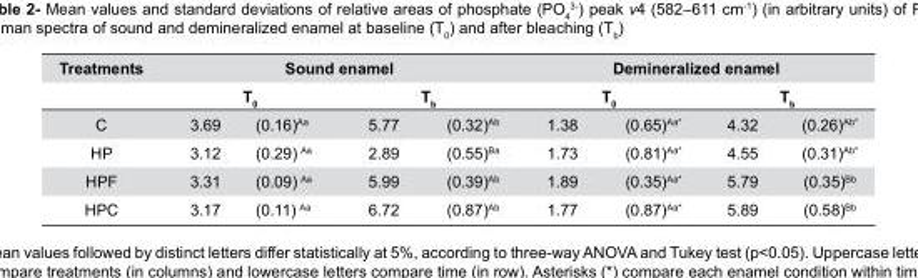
<table><thead><tr><td rowspan="3">Treatments C</td><td colspan="4">Sound enamel</td><td colspan="4">Demineralized enamel</td></tr><tr><td colspan="2"><sup>T</sup><sub>0</sub></td><td colspan="2"><sup>T</sup>b</td><td colspan="2"><sup>T</sup><sub>0</sub></td><td colspan="2"><sup>T</sup>b</td></tr><tr><td>3.69</td><td>(0.16)<sup>Aa</sup></td><td>5.77</td><td>(0.32)<sup>Ab</sup></td><td>1.38</td><td>(0.65)<sup>Aa</sup>*</td><td>4.32</td><td>(0.26)<sup>Ab</sup>*</td></tr></thead><tbody><tr><td>HP</td><td>3.12</td><td>(0.29) <sup>Aa</sup></td><td>2.89</td><td>(0.55)<sup>Ba</sup></td><td>1.73</td><td>(0.81)<sup>Aa</sup>*</td><td>4.55</td><td>(0.31)<sup>Ab</sup>*</td></tr><tr><td>HPF</td><td>3.31</td><td>(0.09) <sup>Aa</sup></td><td>5.99</td><td>(0.39)<sup>Ab</sup></td><td>1.89</td><td>(0.35)<sup>Aa</sup>*</td><td>5.79</td><td>(0.35)<sup>Bb</sup></td></tr><tr><td>HPC</td><td>3.17</td><td>(0.11) <sup>Aa</sup></td><td>6.72</td><td>(0.87)<sup>Ab</sup></td><td>1.77</td><td>(0.87)<sup>Aa</sup>*</td><td>5.89</td><td>(0.58)<sup>Bb</sup></td></tr></tbody></table>